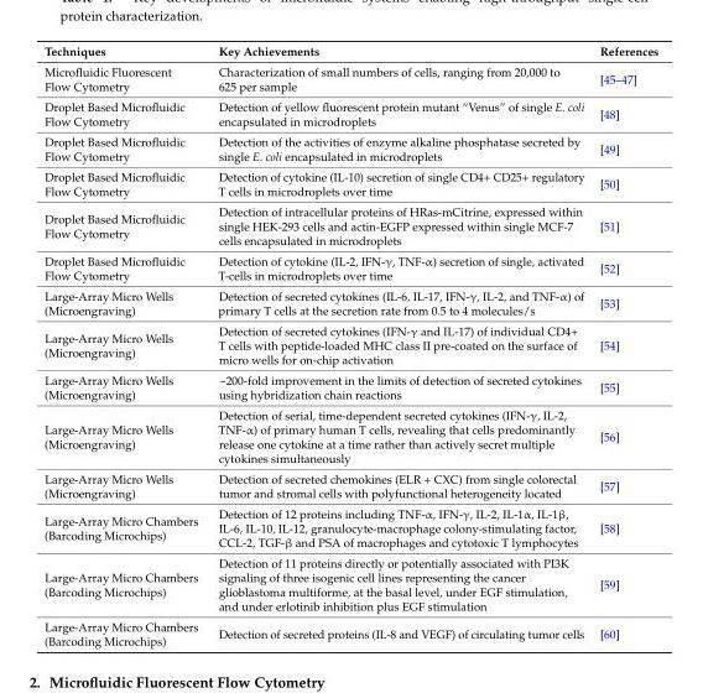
<table><thead><tr><td>Techniques</td><td>Key Achievements</td><td>References</td></tr></thead><tbody><tr><td>Microfluidic Fluorescent Flow Cytometry</td><td>Characterization of small numbers of cells, ranging from 20,000 to 625 per sample</td><td>[45–47]</td></tr><tr><td>Droplet Based Microfluidic Flow Cytometry</td><td>Detection of yellow fluorescent protein mutant “Venus” of single E. coli encapsulated in microdroplets</td><td>[48]</td></tr><tr><td>Droplet Based Microfluidic Flow Cytometry</td><td>Detection of the activities of enzyme alkaline phosphatase secreted by single E. coli encapsulated in microdroplets</td><td>[49]</td></tr><tr><td>Droplet Based Microfluidic Flow Cytometry</td><td>Detection of cytokine (IL-10) secretion of single CD4+ CD25+ regulatory T cells in microdroplets over time</td><td>[50]</td></tr><tr><td>Droplet Based Microfluidic Flow Cytometry</td><td>Detection of intracellular proteins of HRas-mCitrine, expressed within single HEK-293 cells and actin-EGFP expressed within single MCF-7 cells encapsulated in microdroplets</td><td>[51]</td></tr><tr><td>Droplet Based Microfluidic Flow Cytometry</td><td>Detection of cytokine (IL-2, IFN-γ, TNF-α) secretion of single, activated T-cells in microdroplets over time</td><td>[52]</td></tr><tr><td>Large-Array Micro Wells (Microengraving)</td><td>Detection of secreted cytokines (IL-6, IL-17, IFN-γ, IL-2, and TNF-α) of primary T cells at the secretion rate from 0.5 to 4 molecules/s</td><td>[53]</td></tr><tr><td>Large-Array Micro Wells (Microengraving)</td><td>Detection of secreted cytokines (IFN-γ and IL-17) of individual CD4+ T cells with peptide-loaded MHC class II pre-coated on the surface of micro wells for on-chip activation</td><td>[54]</td></tr><tr><td>Large-Array Micro Wells (Microengraving)</td><td>~200-fold improvement in the limits of detection of secreted cytokines using hybridization chain reactions</td><td>[55]</td></tr><tr><td>Large-Array Micro Wells (Microengraving)</td><td>Detection of serial, time-dependent secreted cytokines (IFN-γ, IL-2, TNF-α) of primary human T cells, revealing that cells predominantly release one cytokine at a time rather than actively secret multiple cytokines simultaneously</td><td>[56]</td></tr><tr><td>Large-Array Micro Wells (Microengraving)</td><td>Detection of secreted chemokines (ELR + CXC) from single colorectal tumor and stromal cells with polyfunctional heterogeneity located</td><td>[57]</td></tr><tr><td>Large-Array Micro Chambers (Barcoding Microchips)</td><td>Detection of 12 proteins including TNF-α, IFN-γ, IL-2, IL-1α, IL-1β, IL-6, IL-10, IL-12, granulocyte-macrophage colony-stimulating factor, CCL-2, TGF-β and PSA of macrophages and cytotoxic T lymphocytes</td><td>[58]</td></tr><tr><td>Large-Array Micro Chambers (Barcoding Microchips)</td><td>Detection of 11 proteins directly or potentially associated with PI3K signaling of three isogenic cell lines representing the cancer glioblastoma multiforme, at the basal level, under EGF stimulation, and under erlotinib inhibition plus EGF stimulation</td><td>[59]</td></tr><tr><td>Large-Array Micro Chambers (Barcoding Microchips)</td><td>Detection of secreted proteins (IL-8 and VEGF) of circulating tumor cells</td><td>[60]</td></tr></tbody></table>